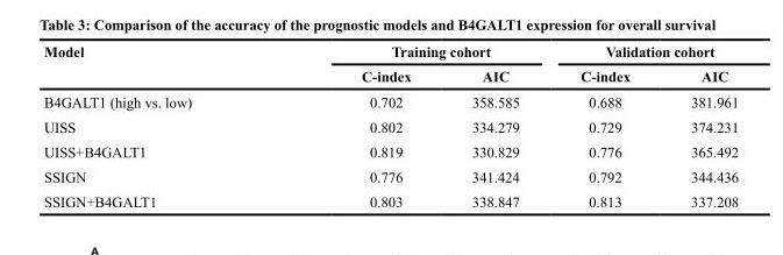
<table><thead><tr><td rowspan="2">Model</td><td colspan="2">Training cohort</td><td colspan="2">Validation cohort</td></tr><tr><td>C-index</td><td>AIC</td><td>C-index</td><td>AIC</td></tr></thead><tbody><tr><td>B4GALT1 (high vs. low)</td><td>0.702</td><td>358.585</td><td>0.688</td><td>381.961</td></tr><tr><td>UISS</td><td>0.802</td><td>334.279</td><td>0.729</td><td>374.231</td></tr><tr><td>UISS+B4GALT1</td><td>0.819</td><td>330.829</td><td>0.776</td><td>365.492</td></tr><tr><td>SSIGN</td><td>0.776</td><td>341.424</td><td>0.792</td><td>344.436</td></tr><tr><td>SSIGN+B4GALT1</td><td>0.803</td><td>338.847</td><td>0.813</td><td>337.208</td></tr></tbody></table>